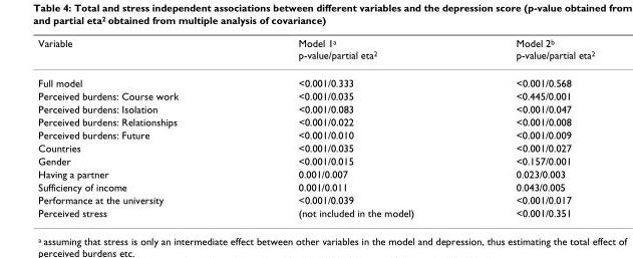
<table><thead><tr><td>Variable</td><td>Model 1<sup>a</sup> p-value/partial eta<sup>2</sup></td><td>Model 2<sup>b</sup> p-value/partial eta<sup>2</sup></td></tr></thead><tbody><tr><td>Full model</td><td>&lt;0.001/0.333</td><td>&lt;0.001/0.568</td></tr><tr><td>Perceived burdens: Course work</td><td>&lt;0.001/0.035</td><td>&lt;0.445/0.001</td></tr><tr><td>Perceived burdens: Isolation</td><td>&lt;0.001/0.083</td><td>&lt;0.001/0.047</td></tr><tr><td>Perceived burdens: Relationships</td><td>&lt;0.001/0.022</td><td>&lt;0.001/0.008</td></tr><tr><td>Perceived burdens: Future</td><td>&lt;0.001/0.010</td><td>&lt;0.001/0.009</td></tr><tr><td>Countries</td><td>&lt;0.001/0.035</td><td>&lt;0.001/0.027</td></tr><tr><td>Gender</td><td>&lt;0.001/0.015</td><td>&lt;0.157/0.001</td></tr><tr><td>Having a partner</td><td>0.001/0.007</td><td>0.023/0.003</td></tr><tr><td>Sufficiency of income</td><td>0.001/0.011</td><td>0.043/0.005</td></tr><tr><td>Performance at the university</td><td>&lt;0.001/0.039</td><td>&lt;0.001/0.017</td></tr><tr><td>Perceived stress</td><td>(not included in the model)</td><td>&lt;0.001/0.351</td></tr></tbody></table>